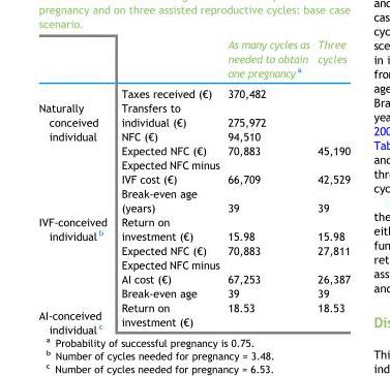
<table><thead><tr><td></td><td></td><td>As many cycles as needed to obtain one pregnancy <sup>a</sup></td><td>Three cycles</td></tr></thead><tbody><tr><td rowspan="3">Naturally conceived individual</td><td>Taxes received (€)</td><td colspan="2">370,482</td></tr><tr><td>Transfers to individual (€)</td><td colspan="2">275,972</td></tr><tr><td>NFC (€)</td><td colspan="2">94,510</td></tr><tr><td rowspan="4">IVF-conceived individual <sup>b</sup></td><td>Expected NFC (€)</td><td>70,883</td><td>45,190</td></tr><tr><td>Expected NFC minus IVF cost (€)</td><td>66,709</td><td>42,529</td></tr><tr><td>Break-even age (years)</td><td>39</td><td>39</td></tr><tr><td>Return on investment (€)</td><td>15.98</td><td>15.98</td></tr><tr><td rowspan="4">AI-conceived individual <sup>c</sup></td><td>Expected NFC (€)</td><td>70,883</td><td>27,811</td></tr><tr><td>Expected NFC minus AI cost (€)</td><td>67,253</td><td>26,387</td></tr><tr><td>Break-even age</td><td>39</td><td>39</td></tr><tr><td>Return on investment (€)</td><td>18.53</td><td>18.53</td></tr></tbody></table>